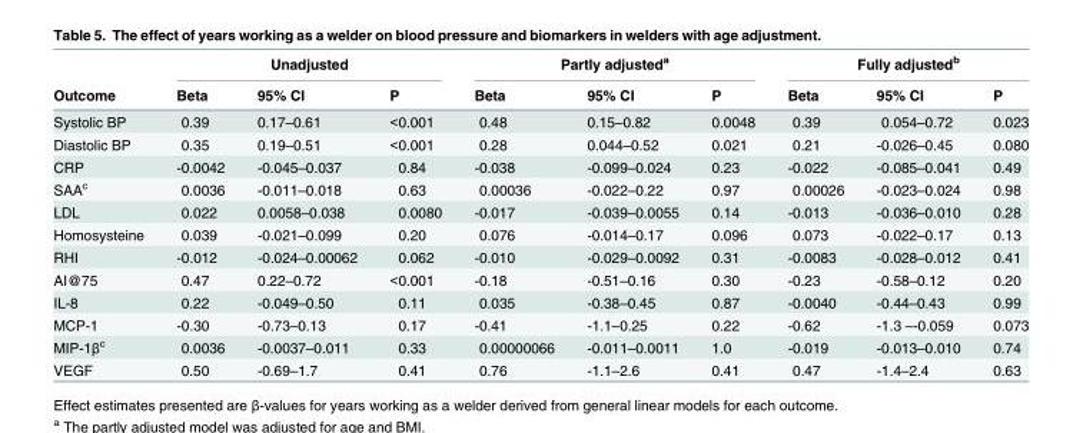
<table><thead><tr><td rowspan="2">Outcome</td><td colspan="3">Unadjusted</td><td colspan="3">Partly adjusted<sup>a</sup></td><td colspan="3">Fully adjusted<sup>b</sup></td></tr><tr><td>Beta</td><td>95% CI</td><td>P</td><td>Beta</td><td>95% CI</td><td>P</td><td>Beta</td><td>95% CI</td><td>P</td></tr></thead><tbody><tr><td>Systolic BP</td><td>0.39</td><td>0.17–0.61</td><td>&lt;0.001</td><td>0.48</td><td>0.15–0.82</td><td>0.0048</td><td>0.39</td><td>0.054–0.72</td><td>0.023</td></tr><tr><td>Diastolic BP</td><td>0.35</td><td>0.19–0.51</td><td>&lt;0.001</td><td>0.28</td><td>0.044–0.52</td><td>0.021</td><td>0.21</td><td>-0.026–0.45</td><td>0.080</td></tr><tr><td>CRP</td><td>-0.0042</td><td>-0.045–0.037</td><td>0.84</td><td>-0.038</td><td>-0.099–0.024</td><td>0.23</td><td>-0.022</td><td>-0.085–0.041</td><td>0.49</td></tr><tr><td>SAA<sup>c</sup></td><td>0.0036</td><td>-0.011–0.018</td><td>0.63</td><td>0.00036</td><td>-0.022–0.22</td><td>0.97</td><td>0.00026</td><td>-0.023–0.024</td><td>0.98</td></tr><tr><td>LDL</td><td>0.022</td><td>0.0058–0.038</td><td>0.0080</td><td>-0.017</td><td>-0.039–0.0055</td><td>0.14</td><td>-0.013</td><td>-0.036–0.010</td><td>0.28</td></tr><tr><td>Homosysteine</td><td>0.039</td><td>-0.021–0.099</td><td>0.20</td><td>0.076</td><td>-0.014–0.17</td><td>0.096</td><td>0.073</td><td>-0.022–0.17</td><td>0.13</td></tr><tr><td>RHI</td><td>-0.012</td><td>-0.024–0.00062</td><td>0.062</td><td>-0.010</td><td>-0.029–0.0092</td><td>0.31</td><td>-0.0083</td><td>-0.028–0.012</td><td>0.41</td></tr><tr><td>AI@75</td><td>0.47</td><td>0.22–0.72</td><td>&lt;0.001</td><td>-0.18</td><td>-0.51–0.16</td><td>0.30</td><td>-0.23</td><td>-0.58–0.12</td><td>0.20</td></tr><tr><td>IL-8</td><td>0.22</td><td>-0.049–0.50</td><td>0.11</td><td>0.035</td><td>-0.38–0.45</td><td>0.87</td><td>-0.0040</td><td>-0.44–0.43</td><td>0.99</td></tr><tr><td>MCP-1</td><td>-0.30</td><td>-0.73–0.13</td><td>0.17</td><td>-0.41</td><td>-1.1–0.25</td><td>0.22</td><td>-0.62</td><td>-1.3 –-0.059</td><td>0.073</td></tr><tr><td>MIP-1β<sup>c</sup></td><td>0.0036</td><td>-0.0037–0.011</td><td>0.33</td><td>0.00000066</td><td>-0.011–0.0011</td><td>1.0</td><td>-0.019</td><td>-0.013–0.010</td><td>0.74</td></tr><tr><td>VEGF</td><td>0.50</td><td>-0.69–1.7</td><td>0.41</td><td>0.76</td><td>-1.1–2.6</td><td>0.41</td><td>0.47</td><td>-1.4–2.4</td><td>0.63</td></tr></tbody></table>